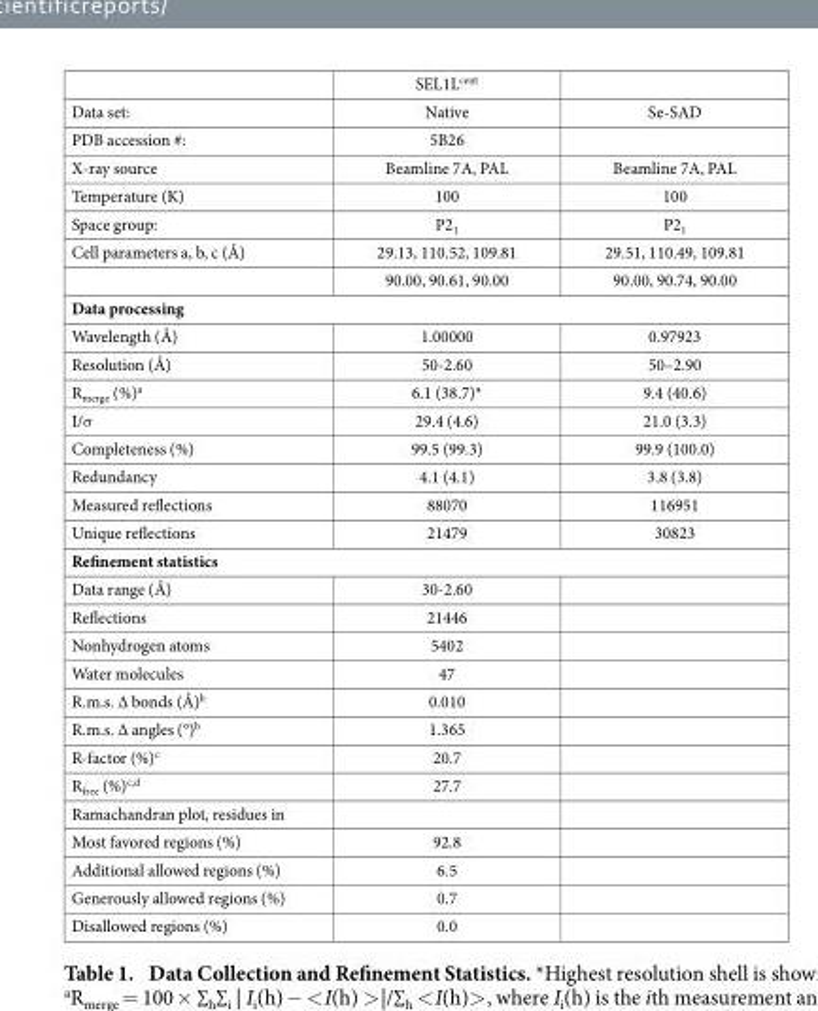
<table><thead><tr><td></td><td>SEL1L<sup>cent</sup></td><td></td></tr></thead><tbody><tr><td>Data set:</td><td>Native</td><td>Se-SAD</td></tr><tr><td>PDB accession #:</td><td>5B26</td><td></td></tr><tr><td>X-ray source</td><td>Beamline 7A, PAL</td><td>Beamline 7A, PAL</td></tr><tr><td>Temperature (K)</td><td>100</td><td>100</td></tr><tr><td>Space group:</td><td>P2<sub>1</sub></td><td>P2<sub>1</sub></td></tr><tr><td rowspan="2">Cell parameters a, b, c (Å)</td><td>29.13, 110.52, 109.81</td><td>29.51, 110.49, 109.81</td></tr><tr><td>90.00, 90.61, 90.00</td><td>90.00, 90.74, 90.00</td></tr><tr><td colspan="3">Data processing</td></tr><tr><td>Wavelength (Å)</td><td>1.00000</td><td>0.97923</td></tr><tr><td>Resolution (Å)</td><td>50-2.60</td><td>50–2.90</td></tr><tr><td>R<sub>merge</sub> (%)<sup>a</sup></td><td>6.1 (38.7)*</td><td>9.4 (40.6)</td></tr><tr><td>I/σ</td><td>29.4 (4.6)</td><td>21.0 (3.3)</td></tr><tr><td>Completeness (%)</td><td>99.5 (99.3)</td><td>99.9 (100.0)</td></tr><tr><td>Redundancy</td><td>4.1 (4.1)</td><td>3.8 (3.8)</td></tr><tr><td>Measured reflections</td><td>88070</td><td>116951</td></tr><tr><td>Unique reflections</td><td>21479</td><td>30823</td></tr><tr><td colspan="3">Refinement statistics</td></tr><tr><td>Data range (Å)</td><td>30-2.60</td><td></td></tr><tr><td>Reflections</td><td>21446</td><td></td></tr><tr><td>Nonhydrogen atoms</td><td>5402</td><td></td></tr><tr><td>Water molecules</td><td>47</td><td></td></tr><tr><td>R.m.s. ∆ bonds (Å)<sup>b</sup></td><td>0.010</td><td></td></tr><tr><td>R.m.s. ∆ angles (°)<sup>b</sup></td><td>1.365</td><td></td></tr><tr><td>R-factor (%)<sup>c</sup></td><td>20.7</td><td></td></tr><tr><td>R<sub>free</sub> (%)<sup>c,d</sup></td><td>27.7</td><td></td></tr><tr><td colspan="3">Ramachandran plot, residues in</td></tr><tr><td>Most favored regions (%)</td><td>92.8</td><td></td></tr><tr><td>Additional allowed regions (%)</td><td>6.5</td><td></td></tr><tr><td>Generously allowed regions (%)</td><td>0.7</td><td></td></tr><tr><td>Disallowed regions (%)</td><td>0.0</td><td></td></tr></tbody></table>